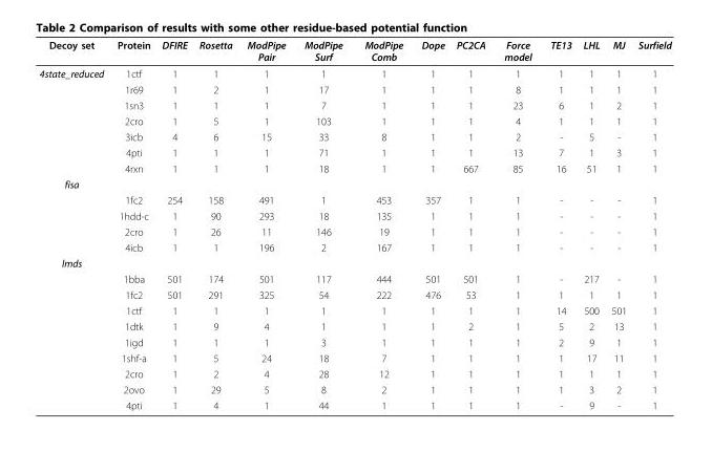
<table><thead><tr><td>Decoy set</td><td>Protein</td><td>DFIRE</td><td>Rosetta</td><td>ModPipe Pair</td><td>ModPipe Surf</td><td>ModPipe Comb</td><td>Dope</td><td>PC2CA</td><td>Force model</td><td>TE13</td><td>LHL</td><td>MJ</td><td>Surfield</td></tr></thead><tbody><tr><td rowspan="7">4state_reduced</td><td>1ctf</td><td>1</td><td>1</td><td>1</td><td>1</td><td>1</td><td>1</td><td>1</td><td>1</td><td>1</td><td>1</td><td>1</td><td>1</td></tr><tr><td>1r69</td><td>1</td><td>2</td><td>1</td><td>17</td><td>1</td><td>1</td><td>1</td><td>8</td><td>1</td><td>1</td><td>1</td><td>1</td></tr><tr><td>1sn3</td><td>1</td><td>1</td><td>1</td><td>7</td><td>1</td><td>1</td><td>1</td><td>23</td><td>6</td><td>1</td><td>2</td><td>1</td></tr><tr><td>2cro</td><td>1</td><td>5</td><td>1</td><td>103</td><td>1</td><td>1</td><td>1</td><td>4</td><td>1</td><td>1</td><td>1</td><td>1</td></tr><tr><td>3icb</td><td>4</td><td>6</td><td>15</td><td>33</td><td>8</td><td>1</td><td>1</td><td>2</td><td>-</td><td>5</td><td>-</td><td>1</td></tr><tr><td>4pti</td><td>1</td><td>1</td><td>1</td><td>71</td><td>1</td><td>1</td><td>1</td><td>13</td><td>7</td><td>1</td><td>3</td><td>1</td></tr><tr><td>4rxn</td><td>1</td><td>1</td><td>1</td><td>18</td><td>1</td><td>1</td><td>667</td><td>85</td><td>16</td><td>51</td><td>1</td><td>1</td></tr><tr><td colspan="14">fisa</td></tr><tr><td></td><td>1fc2</td><td>254</td><td>158</td><td>491</td><td>1</td><td>453</td><td>357</td><td>1</td><td>1</td><td>-</td><td>-</td><td>-</td><td>1</td></tr><tr><td></td><td>1hdd-c</td><td>1</td><td>90</td><td>293</td><td>18</td><td>135</td><td>1</td><td>1</td><td>1</td><td>-</td><td>-</td><td>-</td><td>1</td></tr><tr><td></td><td>2cro</td><td>1</td><td>26</td><td>11</td><td>146</td><td>19</td><td>1</td><td>1</td><td>1</td><td>-</td><td>-</td><td>-</td><td>1</td></tr><tr><td></td><td>4icb</td><td>1</td><td>1</td><td>196</td><td>2</td><td>167</td><td>1</td><td>1</td><td>1</td><td>-</td><td>-</td><td>-</td><td>1</td></tr><tr><td colspan="14">lmds</td></tr><tr><td></td><td>1bba</td><td>501</td><td>174</td><td>501</td><td>117</td><td>444</td><td>501</td><td>501</td><td>1</td><td>-</td><td>217</td><td>-</td><td>1</td></tr><tr><td></td><td>1fc2</td><td>501</td><td>291</td><td>325</td><td>54</td><td>222</td><td>476</td><td>53</td><td>1</td><td>1</td><td>1</td><td>1</td><td>1</td></tr><tr><td></td><td>1ctf</td><td>1</td><td>1</td><td>1</td><td>1</td><td>1</td><td>1</td><td>1</td><td>1</td><td>14</td><td>500</td><td>501</td><td>1</td></tr><tr><td></td><td>1dtk</td><td>1</td><td>9</td><td>4</td><td>1</td><td>1</td><td>1</td><td>2</td><td>1</td><td>5</td><td>2</td><td>13</td><td>1</td></tr><tr><td></td><td>1igd</td><td>1</td><td>1</td><td>1</td><td>3</td><td>1</td><td>1</td><td>1</td><td>1</td><td>2</td><td>9</td><td>1</td><td>1</td></tr><tr><td></td><td>1shf-a</td><td>1</td><td>5</td><td>24</td><td>18</td><td>7</td><td>1</td><td>1</td><td>1</td><td>1</td><td>17</td><td>11</td><td>1</td></tr><tr><td></td><td>2cro</td><td>1</td><td>2</td><td>4</td><td>28</td><td>12</td><td>1</td><td>1</td><td>1</td><td>1</td><td>1</td><td>1</td><td>1</td></tr><tr><td></td><td>2ovo</td><td>1</td><td>29</td><td>5</td><td>8</td><td>2</td><td>1</td><td>1</td><td>1</td><td>1</td><td>3</td><td>2</td><td>1</td></tr><tr><td></td><td>4pti</td><td>1</td><td>4</td><td>1</td><td>44</td><td>1</td><td>1</td><td>1</td><td>1</td><td>-</td><td>9</td><td>-</td><td>1</td></tr></tbody></table>